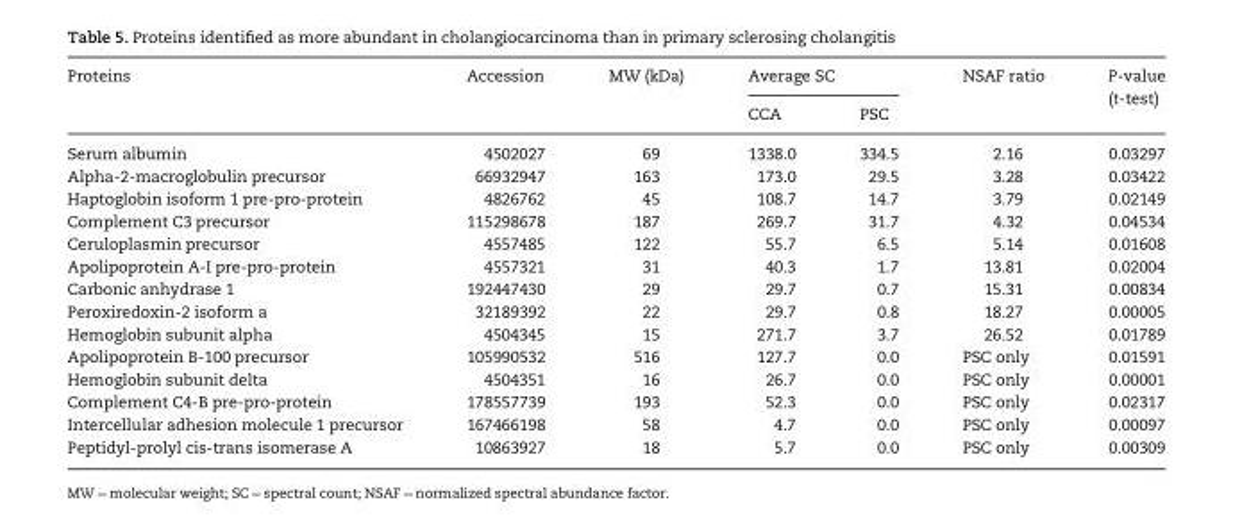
<table><thead><tr><td rowspan="2">Proteins</td><td rowspan="2">Accession</td><td rowspan="2">MW (kDa)</td><td colspan="2">Average SC</td><td rowspan="2">NSAF ratio</td><td rowspan="2">P-value (t-test)</td></tr><tr><td>CCA</td><td>PSC</td></tr></thead><tbody><tr><td>Serum albumin</td><td>4502027</td><td>69</td><td>1338.0</td><td>334.5</td><td>2.16</td><td>0.03297</td></tr><tr><td>Alpha-2-macroglobulin precursor</td><td>66932947</td><td>163</td><td>173.0</td><td>29.5</td><td>3.28</td><td>0.03422</td></tr><tr><td>Haptoglobin isoform 1 pre-pro-protein</td><td>4826762</td><td>45</td><td>108.7</td><td>14.7</td><td>3.79</td><td>0.02149</td></tr><tr><td>Complement C3 precursor</td><td>115298678</td><td>187</td><td>269.7</td><td>31.7</td><td>4.32</td><td>0.04534</td></tr><tr><td>Ceruloplasmin precursor</td><td>4557485</td><td>122</td><td>55.7</td><td>6.5</td><td>5.14</td><td>0.01608</td></tr><tr><td>Apolipoprotein A-I pre-pro-protein</td><td>4557321</td><td>31</td><td>40.3</td><td>1.7</td><td>13.81</td><td>0.02004</td></tr><tr><td>Carbonic anhydrase 1</td><td>192447430</td><td>29</td><td>29.7</td><td>0.7</td><td>15.31</td><td>0.00834</td></tr><tr><td>Peroxiredoxin-2 isoform a</td><td>32189392</td><td>22</td><td>29.7</td><td>0.8</td><td>18.27</td><td>0.00005</td></tr><tr><td>Hemoglobin subunit alpha</td><td>4504345</td><td>15</td><td>271.7</td><td>3.7</td><td>26.52</td><td>0.01789</td></tr><tr><td>Apolipoprotein B-100 precursor</td><td>105990532</td><td>516</td><td>127.7</td><td>0.0</td><td>PSC only</td><td>0.01591</td></tr><tr><td>Hemoglobin subunit delta</td><td>4504351</td><td>16</td><td>26.7</td><td>0.0</td><td>PSC only</td><td>0.00001</td></tr><tr><td>Complement C4-B pre-pro-protein</td><td>178557739</td><td>193</td><td>52.3</td><td>0.0</td><td>PSC only</td><td>0.02317</td></tr><tr><td>Intercellular adhesion molecule 1 precursor</td><td>167466198</td><td>58</td><td>4.7</td><td>0.0</td><td>PSC only</td><td>0.00097</td></tr><tr><td>Peptidyl-prolyl cis-trans isomerase A</td><td>10863927</td><td>18</td><td>5.7</td><td>0.0</td><td>PSC only</td><td>0.00309</td></tr></tbody></table>